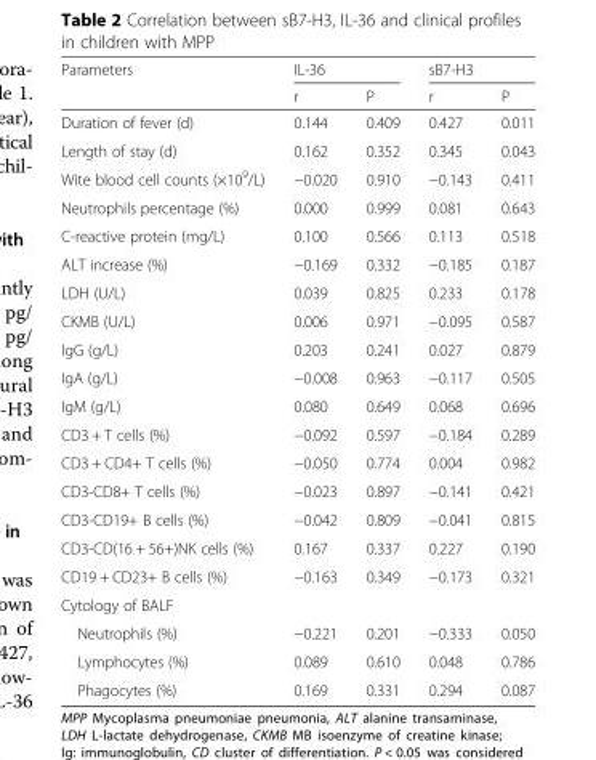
<table><thead><tr><td rowspan="2">Parameters</td><td colspan="2">IL-36</td><td colspan="2">sB7-H3</td></tr><tr><td>r</td><td>P</td><td>r</td><td>P</td></tr></thead><tbody><tr><td>Duration of fever (d)</td><td>0.144</td><td>0.409</td><td>0.427</td><td>0.011</td></tr><tr><td>Length of stay (d)</td><td>0.162</td><td>0.352</td><td>0.345</td><td>0.043</td></tr><tr><td>Wite blood cell counts (×10<sup>9</sup>/L)</td><td>−0.020</td><td>0.910</td><td>−0.143</td><td>0.411</td></tr><tr><td>Neutrophils percentage (%)</td><td>0.000</td><td>0.999</td><td>0.081</td><td>0.643</td></tr><tr><td>C-reactive protein (mg/L)</td><td>0.100</td><td>0.566</td><td>0.113</td><td>0.518</td></tr><tr><td>ALT increase (%)</td><td>−0.169</td><td>0.332</td><td>−0.185</td><td>0.187</td></tr><tr><td>LDH (U/L)</td><td>0.039</td><td>0.825</td><td>0.233</td><td>0.178</td></tr><tr><td>CKMB (U/L)</td><td>0.006</td><td>0.971</td><td>−0.095</td><td>0.587</td></tr><tr><td>IgG (g/L)</td><td>0.203</td><td>0.241</td><td>0.027</td><td>0.879</td></tr><tr><td>IgA (g/L)</td><td>−0.008</td><td>0.963</td><td>−0.117</td><td>0.505</td></tr><tr><td>IgM (g/L)</td><td>0.080</td><td>0.649</td><td>0.068</td><td>0.696</td></tr><tr><td>CD3 + T cells (%)</td><td>−0.092</td><td>0.597</td><td>−0.184</td><td>0.289</td></tr><tr><td>CD3 + CD4+ T cells (%)</td><td>−0.050</td><td>0.774</td><td>0.004</td><td>0.982</td></tr><tr><td>CD3-CD8+ T cells (%)</td><td>−0.023</td><td>0.897</td><td>−0.141</td><td>0.421</td></tr><tr><td>CD3-CD19+ B cells (%)</td><td>−0.042</td><td>0.809</td><td>−0.041</td><td>0.815</td></tr><tr><td>CD3-CD(16 + 56+)NK cells (%)</td><td>0.167</td><td>0.337</td><td>0.227</td><td>0.190</td></tr><tr><td>CD19 + CD23+ B cells (%)</td><td>−0.163</td><td>0.349</td><td>−0.173</td><td>0.321</td></tr><tr><td colspan="5">Cytology of BALF</td></tr><tr><td>Neutrophils (%)</td><td>−0.221</td><td>0.201</td><td>−0.333</td><td>0.050</td></tr><tr><td>Lymphocytes (%)</td><td>0.089</td><td>0.610</td><td>0.048</td><td>0.786</td></tr><tr><td>Phagocytes (%)</td><td>0.169</td><td>0.331</td><td>0.294</td><td>0.087</td></tr></tbody></table>